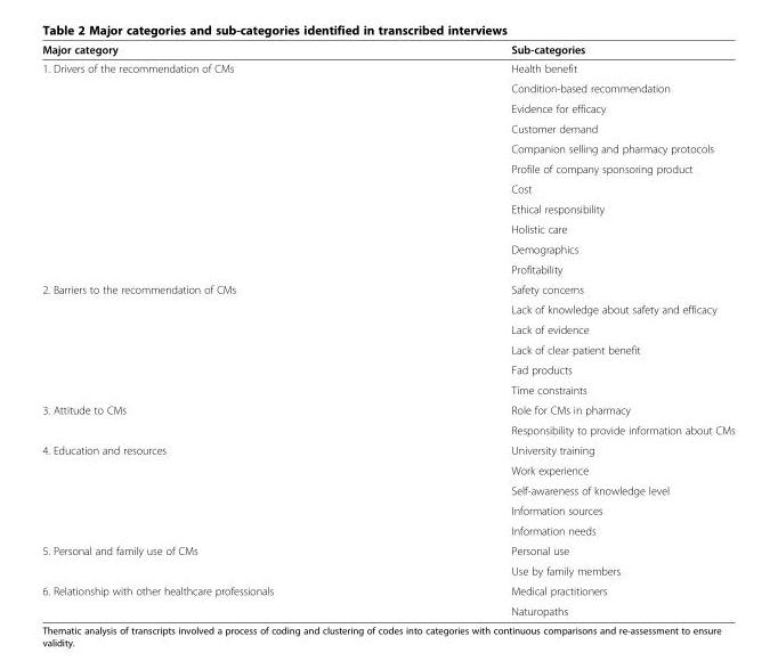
<table><thead><tr><td>Major category</td><td>Sub-categories</td></tr></thead><tbody><tr><td rowspan="11">1. Drivers of the recommendation of CMs</td><td>Health benefit</td></tr><tr><td>Condition-based recommendation</td></tr><tr><td>Evidence for efficacy</td></tr><tr><td>Customer demand</td></tr><tr><td>Companion selling and pharmacy protocols</td></tr><tr><td>Profile of company sponsoring product</td></tr><tr><td>Cost</td></tr><tr><td>Ethical responsibility</td></tr><tr><td>Holistic care</td></tr><tr><td>Demographics</td></tr><tr><td>Profitability</td></tr><tr><td rowspan="6">2. Barriers to the recommendation of CMs</td><td>Safety concerns</td></tr><tr><td>Lack of knowledge about safety and efficacy</td></tr><tr><td>Lack of evidence</td></tr><tr><td>Lack of clear patient benefit</td></tr><tr><td>Fad products</td></tr><tr><td>Time constraints</td></tr><tr><td rowspan="2">3. Attitude to CMs</td><td>Role for CMs in pharmacy</td></tr><tr><td>Responsibility to provide information about CMs</td></tr><tr><td rowspan="5">4. Education and resources</td><td>University training</td></tr><tr><td>Work experience</td></tr><tr><td>Self-awareness of knowledge level</td></tr><tr><td>Information sources</td></tr><tr><td>Information needs</td></tr><tr><td rowspan="2">5. Personal and family use of CMs</td><td>Personal use</td></tr><tr><td>Use by family members</td></tr><tr><td rowspan="2">6. Relationship with other healthcare professionals</td><td>Medical practitioners</td></tr><tr><td>Naturopaths</td></tr></tbody></table>